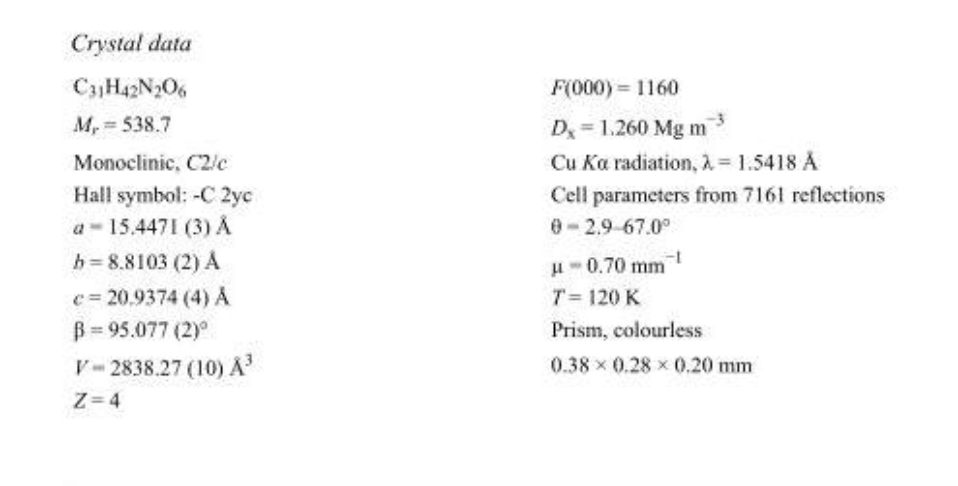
<table><tbody><tr><td>C<sub>31</sub>H<sub>42</sub>N<sub>2</sub>O<sub>6</sub></td><td>F(000) = 1160</td></tr><tr><td>M<sub>r</sub> = 538.7</td><td>D<sub>x</sub> = 1.260 Mg m<sup>−3</sup></td></tr><tr><td>Monoclinic, C2/c</td><td>Cu Kα radiation, λ = 1.5418 Å</td></tr><tr><td>Hall symbol: -C 2yc</td><td>Cell parameters from 7161 reflections</td></tr><tr><td>a = 15.4471 (3) Å</td><td>θ = 2.9–67.0°</td></tr><tr><td>b = 8.8103 (2) Å</td><td>µ = 0.70 mm<sup>−1</sup></td></tr><tr><td>c = 20.9374 (4) Å</td><td>T = 120 K</td></tr><tr><td>β = 95.077 (2)°</td><td>Prism, colourless</td></tr><tr><td>V = 2838.27 (10) Å<sup>3</sup></td><td>0.38 × 0.28 × 0.20 mm</td></tr><tr><td>Z = 4</td><td></td></tr></tbody></table>